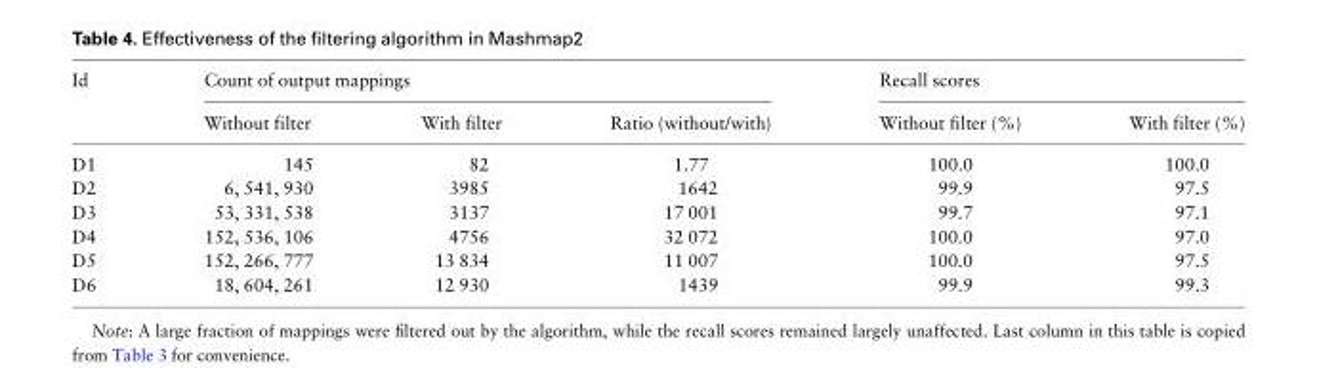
<table><thead><tr><td rowspan="2">Id</td><td colspan="3">Count of output mappings</td><td colspan="2">Recall scores</td></tr><tr><td>Without filter</td><td>With filter</td><td>Ratio (without/with)</td><td>Without filter (%)</td><td>With filter (%)</td></tr></thead><tbody><tr><td>D1</td><td>145</td><td>82</td><td>1.77</td><td>100.0</td><td>100.0</td></tr><tr><td>D2</td><td>6, 541, 930</td><td>3985</td><td>1642</td><td>99.9</td><td>97.5</td></tr><tr><td>D3</td><td>53, 331, 538</td><td>3137</td><td>17 001</td><td>99.7</td><td>97.1</td></tr><tr><td>D4</td><td>152, 536, 106</td><td>4756</td><td>32 072</td><td>100.0</td><td>97.0</td></tr><tr><td>D5</td><td>152, 266, 777</td><td>13 834</td><td>11 007</td><td>100.0</td><td>97.5</td></tr><tr><td>D6</td><td>18, 604, 261</td><td>12 930</td><td>1439</td><td>99.9</td><td>99.3</td></tr></tbody></table>